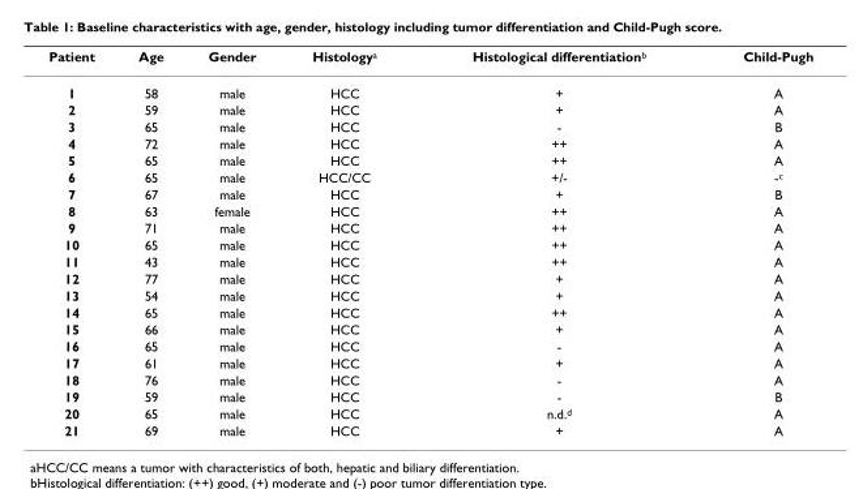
<table><thead><tr><td>Patient</td><td>Age</td><td>Gender</td><td>Histology<sup>a</sup></td><td>Histological differentiation<sup>b</sup></td><td>Child-Pugh</td></tr></thead><tbody><tr><td>1</td><td>58</td><td>male</td><td>HCC</td><td>+</td><td>A</td></tr><tr><td>2</td><td>59</td><td>male</td><td>HCC</td><td>+</td><td>A</td></tr><tr><td>3</td><td>65</td><td>male</td><td>HCC</td><td>-</td><td>B</td></tr><tr><td>4</td><td>72</td><td>male</td><td>HCC</td><td>++</td><td>A</td></tr><tr><td>5</td><td>65</td><td>male</td><td>HCC</td><td>++</td><td>A</td></tr><tr><td>6</td><td>65</td><td>male</td><td>HCC/CC</td><td>+/-</td><td>-<sup>c</sup></td></tr><tr><td>7</td><td>67</td><td>male</td><td>HCC</td><td>+</td><td>B</td></tr><tr><td>8</td><td>63</td><td>female</td><td>HCC</td><td>++</td><td>A</td></tr><tr><td>9</td><td>71</td><td>male</td><td>HCC</td><td>++</td><td>A</td></tr><tr><td>10</td><td>65</td><td>male</td><td>HCC</td><td>++</td><td>A</td></tr><tr><td>11</td><td>43</td><td>male</td><td>HCC</td><td>++</td><td>A</td></tr><tr><td>12</td><td>77</td><td>male</td><td>HCC</td><td>+</td><td>A</td></tr><tr><td>13</td><td>54</td><td>male</td><td>HCC</td><td>+</td><td>A</td></tr><tr><td>14</td><td>65</td><td>male</td><td>HCC</td><td>++</td><td>A</td></tr><tr><td>15</td><td>66</td><td>male</td><td>HCC</td><td>+</td><td>A</td></tr><tr><td>16</td><td>65</td><td>male</td><td>HCC</td><td>-</td><td>A</td></tr><tr><td>17</td><td>61</td><td>male</td><td>HCC</td><td>+</td><td>A</td></tr><tr><td>18</td><td>76</td><td>male</td><td>HCC</td><td>-</td><td>A</td></tr><tr><td>19</td><td>59</td><td>male</td><td>HCC</td><td>-</td><td>B</td></tr><tr><td>20</td><td>65</td><td>male</td><td>HCC</td><td>n.d.<sup>d</sup></td><td>A</td></tr><tr><td>21</td><td>69</td><td>male</td><td>HCC</td><td>+</td><td>A</td></tr></tbody></table>